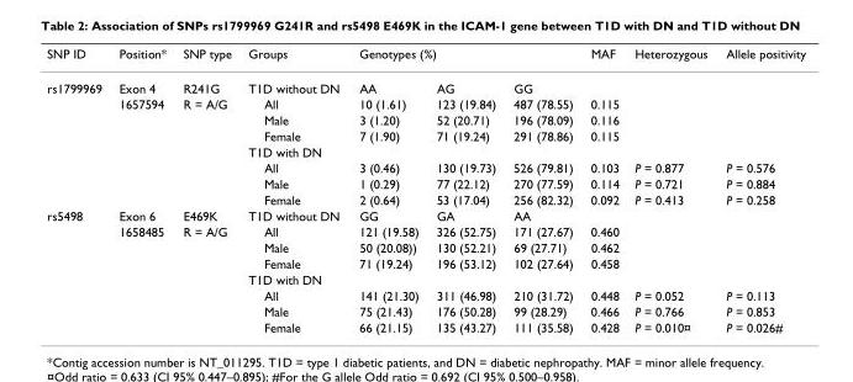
<table><thead><tr><td rowspan="2">SNP ID rs1799969</td><td rowspan="2">Position* Exon 4</td><td rowspan="2">SNP type R241G</td><td rowspan="2">Groups T1D without DN</td><td colspan="3">Genotypes (%)</td><td rowspan="2">MAF</td><td rowspan="2">Heterozygous</td><td rowspan="2">Allele positivity</td></tr><tr><td>AA</td><td>AG</td><td>GG</td></tr></thead><tbody><tr><td></td><td>1657594</td><td>R = A/G</td><td>All</td><td>10 (1.61)</td><td>123 (19.84)</td><td>487 (78.55)</td><td>0.115</td><td></td><td></td></tr><tr><td></td><td></td><td></td><td>Male</td><td>3 (1.20)</td><td>52 (20.71)</td><td>196 (78.09)</td><td>0.116</td><td></td><td></td></tr><tr><td></td><td></td><td></td><td>Female</td><td>7 (1.90)</td><td>71 (19.24)</td><td>291 (78.86)</td><td>0.115</td><td></td><td></td></tr><tr><td></td><td></td><td></td><td>T1D with DN</td><td></td><td></td><td></td><td></td><td></td><td></td></tr><tr><td></td><td></td><td></td><td>All</td><td>3 (0.46)</td><td>130 (19.73)</td><td>526 (79.81)</td><td>0.103</td><td>P = 0.877</td><td>P = 0.576</td></tr><tr><td></td><td></td><td></td><td>Male</td><td>1 (0.29)</td><td>77 (22.12)</td><td>270 (77.59)</td><td>0.114</td><td>P = 0.721</td><td>P = 0.884</td></tr><tr><td></td><td></td><td></td><td>Female</td><td>2 (0.64)</td><td>53 (17.04)</td><td>256 (82.32)</td><td>0.092</td><td>P = 0.413</td><td>P = 0.258</td></tr><tr><td rowspan="8">rs5498</td><td>Exon 6</td><td>E469K</td><td>T1D without DN</td><td>GG</td><td>GA</td><td>AA</td><td></td><td></td><td></td></tr><tr><td>1658485</td><td>R = A/G</td><td>All</td><td>121 (19.58)</td><td>326 (52.75)</td><td>171 (27.67)</td><td>0.460</td><td></td><td></td></tr><tr><td></td><td></td><td>Male</td><td>50 (20.08))</td><td>130 (52.21)</td><td>69 (27.71)</td><td>0.462</td><td></td><td></td></tr><tr><td></td><td></td><td>Female</td><td>71 (19.24)</td><td>196 (53.12)</td><td>102 (27.64)</td><td>0.458</td><td></td><td></td></tr><tr><td></td><td></td><td>T1D with DN</td><td></td><td></td><td></td><td></td><td></td><td></td></tr><tr><td></td><td></td><td>All</td><td>141 (21.30)</td><td>311 (46.98)</td><td>210 (31.72)</td><td>0.448</td><td>P = 0.052</td><td>P = 0.113</td></tr><tr><td></td><td></td><td>Male</td><td>75 (21.43)</td><td>176 (50.28)</td><td>99 (28.29)</td><td>0.466</td><td>P = 0.766</td><td>P = 0.853</td></tr><tr><td></td><td></td><td>Female</td><td>66 (21.15)</td><td>135 (43.27)</td><td>111 (35.58)</td><td>0.428</td><td>P = 0.010¤</td><td>P = 0.026#</td></tr></tbody></table>